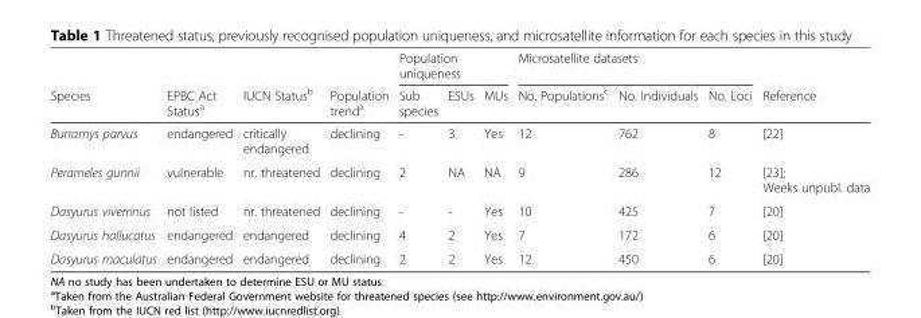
<table><thead><tr><td rowspan="2">Species</td><td rowspan="2">EPBC Act Status<sup>a</sup></td><td rowspan="2">IUCN Status<sup>b</sup></td><td rowspan="2">Population trend<sup>a</sup></td><td colspan="3">Population uniqueness</td><td colspan="3">Microsatellite datasets</td><td rowspan="2">Reference</td></tr><tr><td>Sub species</td><td>ESUs</td><td>MUs</td><td>No. Populations<sup>c</sup></td><td>No. Individuals</td><td>No. Loci</td></tr></thead><tbody><tr><td>Burramys parvus</td><td>endangered</td><td>critically endangered</td><td>declining</td><td>-</td><td>3</td><td>Yes</td><td>12</td><td>762</td><td>8</td><td>[22]</td></tr><tr><td>Perameles gunnii</td><td>vulnerable</td><td>nr. threatened</td><td>declining</td><td>2</td><td>NA</td><td>NA</td><td>9</td><td>286</td><td>12</td><td>[23]; Weeks unpubl. data</td></tr><tr><td>Dasyurus viverrinus</td><td>not listed</td><td>nr. threatened</td><td>declining</td><td>-</td><td>-</td><td>Yes</td><td>10</td><td>425</td><td>7</td><td>[20]</td></tr><tr><td>Dasyurus hallucatus</td><td>endangered</td><td>endangered</td><td>declining</td><td>4</td><td>2</td><td>Yes</td><td>7</td><td>172</td><td>6</td><td>[20]</td></tr><tr><td>Dasyurus maculatus</td><td>endangered</td><td>endangered</td><td>declining</td><td>2</td><td>2</td><td>Yes</td><td>12</td><td>450</td><td>6</td><td>[20]</td></tr></tbody></table>